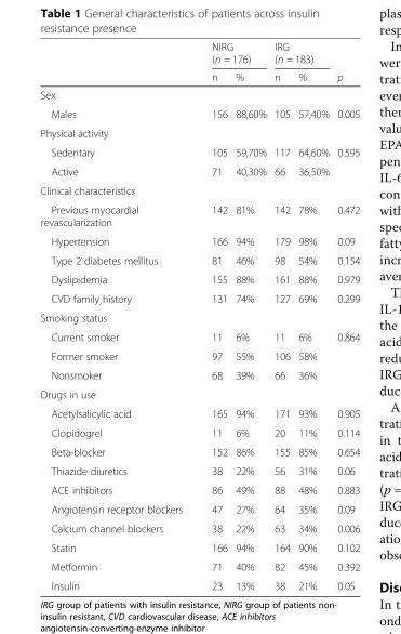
<table><thead><tr><td rowspan="2"></td><td colspan="2">NIRG (n = 176)</td><td colspan="2">IRG (n = 183)</td><td rowspan="2">p</td></tr><tr><td>n</td><td>%</td><td>n</td><td>%</td></tr></thead><tbody><tr><td colspan="6">Sex</td></tr><tr><td>Males</td><td>156</td><td>88,60%</td><td>105</td><td>57,40%</td><td>0.005</td></tr><tr><td colspan="6">Physical activity</td></tr><tr><td>Sedentary</td><td>105</td><td>59,70%</td><td>117</td><td>64,60%</td><td>0.595</td></tr><tr><td>Active</td><td>71</td><td>40,30%</td><td>66</td><td>36,50%</td><td></td></tr><tr><td colspan="6">Clinical characteristics</td></tr><tr><td>Previous myocardial revascularization</td><td>142</td><td>81%</td><td>142</td><td>78%</td><td>0.472</td></tr><tr><td>Hypertension</td><td>166</td><td>94%</td><td>179</td><td>98%</td><td>0.09</td></tr><tr><td>Type 2 diabetes mellitus</td><td>81</td><td>46%</td><td>98</td><td>54%</td><td>0.154</td></tr><tr><td>Dyslipidemia</td><td>155</td><td>88%</td><td>161</td><td>88%</td><td>0.979</td></tr><tr><td>CVD family history</td><td>131</td><td>74%</td><td>127</td><td>69%</td><td>0.299</td></tr><tr><td colspan="6">Smoking status</td></tr><tr><td>Current smoker</td><td>11</td><td>6%</td><td>11</td><td>6%</td><td>0.864</td></tr><tr><td>Former smoker</td><td>97</td><td>55%</td><td>106</td><td>58%</td><td></td></tr><tr><td>Nonsmoker</td><td>68</td><td>39%</td><td>66</td><td>36%</td><td></td></tr><tr><td colspan="6">Drugs in use</td></tr><tr><td>Acetylsalicylic acid</td><td>165</td><td>94%</td><td>171</td><td>93%</td><td>0.905</td></tr><tr><td>Clopidogrel</td><td>11</td><td>6%</td><td>20</td><td>11%</td><td>0.114</td></tr><tr><td>Beta-blocker</td><td>152</td><td>86%</td><td>155</td><td>85%</td><td>0.654</td></tr><tr><td>Thiazide diuretics</td><td>38</td><td>22%</td><td>56</td><td>31%</td><td>0.06</td></tr><tr><td>ACE inhibitors</td><td>86</td><td>49%</td><td>88</td><td>48%</td><td>0.883</td></tr><tr><td>Angiotensin receptor blockers</td><td>47</td><td>27%</td><td>64</td><td>35%</td><td>0.09</td></tr><tr><td>Calcium channel blockers</td><td>38</td><td>22%</td><td>63</td><td>34%</td><td>0.006</td></tr><tr><td>Statin</td><td>166</td><td>94%</td><td>164</td><td>90%</td><td>0.102</td></tr><tr><td>Metformin</td><td>71</td><td>40%</td><td>82</td><td>45%</td><td>0.392</td></tr><tr><td>Insulin</td><td>23</td><td>13%</td><td>38</td><td>21%</td><td>0.05</td></tr></tbody></table>